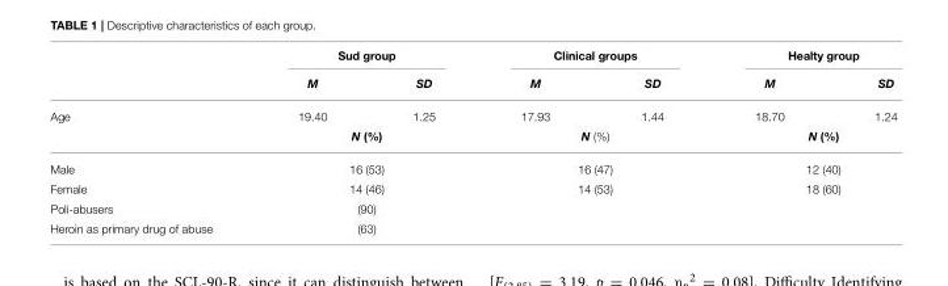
<table><thead><tr><td rowspan="2"></td><td colspan="2">Sud group</td><td colspan="2">Clinical groups</td><td colspan="2">Healty group</td></tr><tr><td>M</td><td>SD</td><td>M</td><td>SD</td><td>M</td><td>SD</td></tr></thead><tbody><tr><td rowspan="2">Age</td><td>19.40</td><td>1.25</td><td>17.93</td><td>1.44</td><td>18.70</td><td>1.24</td></tr><tr><td colspan="2">N (%)</td><td colspan="2">N (%)</td><td colspan="2">N (%)</td></tr><tr><td>Male</td><td colspan="2">16 (53)</td><td colspan="2">16 (47)</td><td colspan="2">12 (40)</td></tr><tr><td>Female</td><td colspan="2">14 (46)</td><td colspan="2">14 (53)</td><td colspan="2">18 (60)</td></tr><tr><td>Poli-abusers</td><td colspan="2">(90)</td><td colspan="2"></td><td colspan="2"></td></tr><tr><td>Heroin as primary drug of abuse</td><td colspan="2">(63)</td><td colspan="2"></td><td colspan="2"></td></tr></tbody></table>